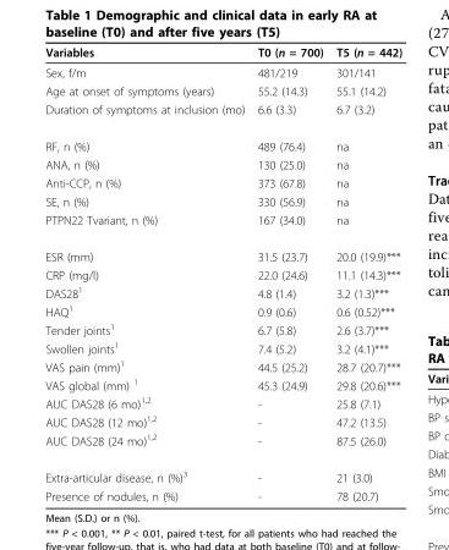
<table><thead><tr><td>Variables</td><td>T0 (n = 700)</td><td>T5 (n = 442)</td></tr></thead><tbody><tr><td>Sex, f/m</td><td>481/219</td><td>301/141</td></tr><tr><td>Age at onset of symptoms (years)</td><td>55.2 (14.3)</td><td>55.1 (14.2)</td></tr><tr><td>Duration of symptoms at inclusion (mo)</td><td>6.6 (3.3)</td><td>6.7 (3.2)</td></tr><tr><td>RF, n (%)</td><td>489 (76.4)</td><td>na</td></tr><tr><td>ANA, n (%)</td><td>130 (25.0)</td><td>na</td></tr><tr><td>Anti-CCP, n (%)</td><td>373 (67.8)</td><td>na</td></tr><tr><td>SE, n (%)</td><td>330 (56.9)</td><td>na</td></tr><tr><td>PTPN22 Tvariant, n (%)</td><td>167 (34.0)</td><td>na</td></tr><tr><td>ESR (mm)</td><td>31.5 (23.7)</td><td>20.0 (19.9)***</td></tr><tr><td>CRP (mg/l)</td><td>22.0 (24.6)</td><td>11.1 (14.3)***</td></tr><tr><td>DAS28<sup>1</sup></td><td>4.8 (1.4)</td><td>3.2 (1.3)***</td></tr><tr><td>HAQ<sup>1</sup></td><td>0.9 (0.6)</td><td>0.6 (0.52)***</td></tr><tr><td>Tender joints<sup>1</sup></td><td>6.7 (5.8)</td><td>2.6 (3.7)***</td></tr><tr><td>Swollen joints<sup>1</sup></td><td>7.4 (5.2)</td><td>3.2 (4.1)***</td></tr><tr><td>VAS pain (mm)<sup>1</sup></td><td>44.5 (25.2)</td><td>28.7 (20.7)***</td></tr><tr><td>VAS global (mm) <sup>1</sup></td><td>45.3 (24.9)</td><td>29.8 (20.6)***</td></tr><tr><td>AUC DAS28 (6 mo)<sup>1,2</sup></td><td>-</td><td>25.8 (7.1)</td></tr><tr><td>AUC DAS28 (12 mo)<sup>1,2</sup></td><td>-</td><td>47.2 (13.5)</td></tr><tr><td>AUC DAS28 (24 mo)<sup>1,2</sup></td><td>-</td><td>87.5 (26.0)</td></tr><tr><td>Extra-articular disease, n (%)<sup>3</sup></td><td>-</td><td>21 (3.0)</td></tr><tr><td>Presence of nodules, n (%)</td><td>-</td><td>78 (20.7)</td></tr></tbody></table>